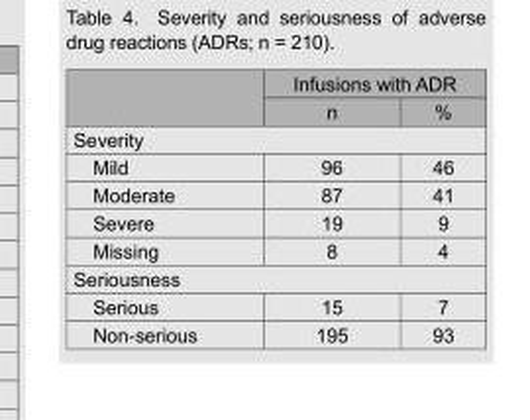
<table><thead><tr><td rowspan="2"></td><td colspan="2">Infusions with ADR</td></tr><tr><td>n</td><td>%</td></tr></thead><tbody><tr><td colspan="3">Severity</td></tr><tr><td>Mild</td><td>96</td><td>46</td></tr><tr><td>Moderate</td><td>87</td><td>41</td></tr><tr><td>Severe</td><td>19</td><td>9</td></tr><tr><td>Missing</td><td>8</td><td>4</td></tr><tr><td colspan="3">Seriousness</td></tr><tr><td>Serious</td><td>15</td><td>7</td></tr><tr><td>Non-serious</td><td>195</td><td>93</td></tr></tbody></table>